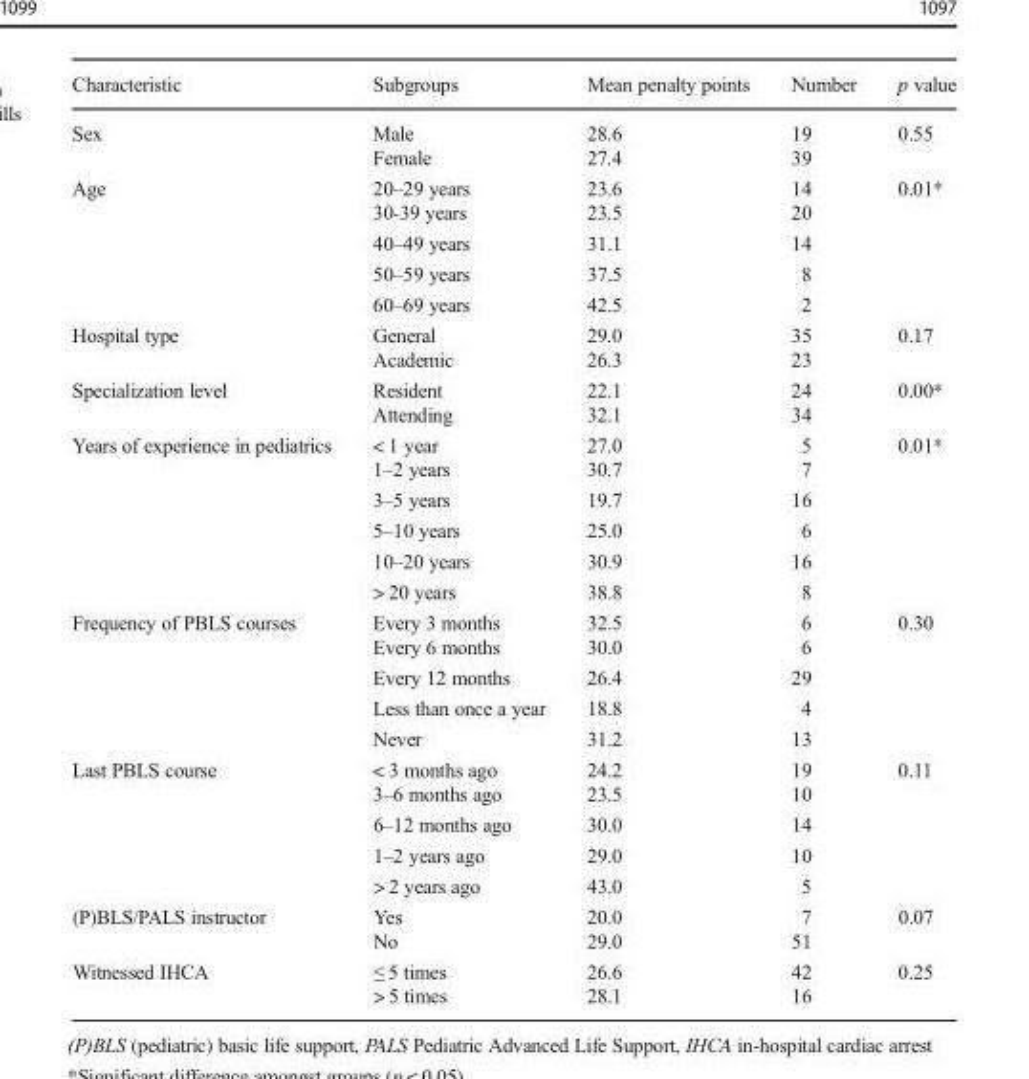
<table><thead><tr><td>Characteristic</td><td>Subgroups</td><td>Mean penalty points</td><td>Number</td><td>p value</td></tr></thead><tbody><tr><td rowspan="2">Sex</td><td>Male</td><td>28.6</td><td>19</td><td rowspan="2">0.55</td></tr><tr><td>Female</td><td>27.4</td><td>39</td></tr><tr><td rowspan="5">Age</td><td>20–29 years</td><td>23.6</td><td>14</td><td rowspan="5">0.01*</td></tr><tr><td>30-39 years</td><td>23.5</td><td>20</td></tr><tr><td>40–49 years</td><td>31.1</td><td>14</td></tr><tr><td>50–59 years</td><td>37.5</td><td>8</td></tr><tr><td>60–69 years</td><td>42.5</td><td>2</td></tr><tr><td rowspan="2">Hospital type</td><td>General</td><td>29.0</td><td>35</td><td rowspan="2">0.17</td></tr><tr><td>Academic</td><td>26.3</td><td>23</td></tr><tr><td rowspan="2">Specialization level</td><td>Resident</td><td>22.1</td><td>24</td><td rowspan="2">0.00*</td></tr><tr><td>Attending</td><td>32.1</td><td>34</td></tr><tr><td rowspan="6">Years of experience in pediatrics</td><td>&lt; 1 year</td><td>27.0</td><td>5</td><td rowspan="6">0.01*</td></tr><tr><td>1–2 years</td><td>30.7</td><td>7</td></tr><tr><td>3–5 years</td><td>19.7</td><td>16</td></tr><tr><td>5–10 years</td><td>25.0</td><td>6</td></tr><tr><td>10–20 years</td><td>30.9</td><td>16</td></tr><tr><td>&gt; 20 years</td><td>38.8</td><td>8</td></tr><tr><td rowspan="5">Frequency of PBLS courses</td><td>Every 3 months</td><td>32.5</td><td>6</td><td rowspan="5">0.30</td></tr><tr><td>Every 6 months</td><td>30.0</td><td>6</td></tr><tr><td>Every 12 months</td><td>26.4</td><td>29</td></tr><tr><td>Less than once a year</td><td>18.8</td><td>4</td></tr><tr><td>Never</td><td>31.2</td><td>13</td></tr><tr><td rowspan="5">Last PBLS course</td><td>&lt; 3 months ago</td><td>24.2</td><td>19</td><td rowspan="5">0.11</td></tr><tr><td>3–6 months ago</td><td>23.5</td><td>10</td></tr><tr><td>6–12 months ago</td><td>30.0</td><td>14</td></tr><tr><td>1–2 years ago</td><td>29.0</td><td>10</td></tr><tr><td>&gt; 2 years ago</td><td>43.0</td><td>5</td></tr><tr><td rowspan="2">(P)BLS/PALS instructor</td><td>Yes</td><td>20.0</td><td>7</td><td rowspan="2">0.07</td></tr><tr><td>No</td><td>29.0</td><td>51</td></tr><tr><td rowspan="2">Witnessed IHCA</td><td>≤ 5 times</td><td>26.6</td><td>42</td><td rowspan="2">0.25</td></tr><tr><td>&gt; 5 times</td><td>28.1</td><td>16</td></tr></tbody></table>